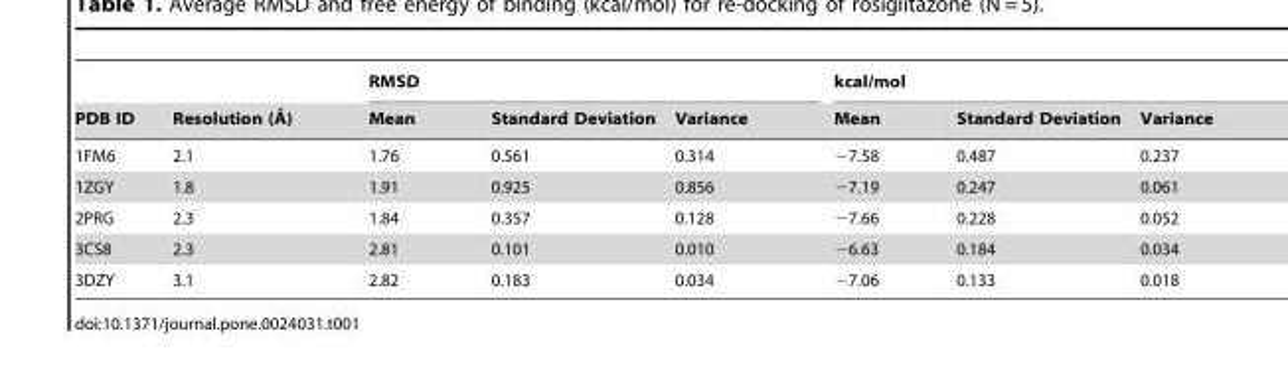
<table><thead><tr><td rowspan="2">PDB ID</td><td rowspan="2">Resolution (A˚ )</td><td colspan="3">RMSD</td><td colspan="3">kcal/mol</td></tr><tr><td>Mean</td><td>Standard Deviation</td><td>Variance</td><td>Mean</td><td>Standard Deviation</td><td>Variance</td></tr></thead><tbody><tr><td>1FM6</td><td>2.1</td><td>1.76</td><td>0.561</td><td>0.314</td><td>−7.58</td><td>0.487</td><td>0.237</td></tr><tr><td>1ZGY</td><td>1.8</td><td>1.91</td><td>0.925</td><td>0.856</td><td>−7.19</td><td>0.247</td><td>0.061</td></tr><tr><td>2PRG</td><td>2.3</td><td>1.84</td><td>0.357</td><td>0.128</td><td>−7.66</td><td>0.228</td><td>0.052</td></tr><tr><td>3CS8</td><td>2.3</td><td>2.81</td><td>0.101</td><td>0.010</td><td>−6.63</td><td>0.184</td><td>0.034</td></tr><tr><td>3DZY</td><td>3.1</td><td>2.82</td><td>0.183</td><td>0.034</td><td>−7.06</td><td>0.133</td><td>0.018</td></tr></tbody></table>